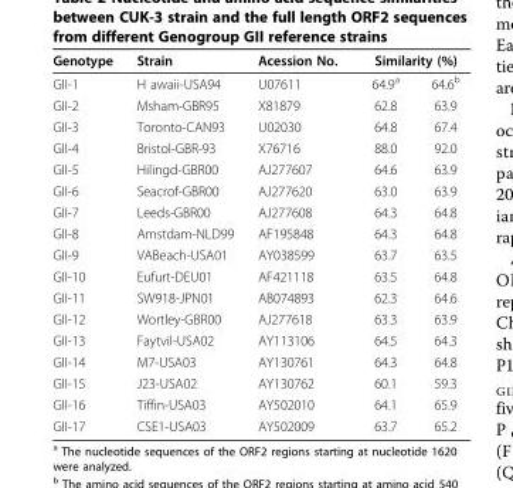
<table><thead><tr><td rowspan="2">Genotype GII-1</td><td rowspan="2">Strain H awaii-USA94</td><td rowspan="2">Acession No. U07611</td><td colspan="2">Similarity (%)</td></tr><tr><td>64.9<sup>a</sup></td><td>64.6<sup>b</sup></td></tr></thead><tbody><tr><td>GII-2</td><td>Msham-GBR95</td><td>X81879</td><td>62.8</td><td>63.9</td></tr><tr><td>GII-3</td><td>Toronto-CAN93</td><td>U02030</td><td>64.8</td><td>67.4</td></tr><tr><td>GII-4</td><td>Bristol-GBR-93</td><td>X76716</td><td>88.0</td><td>92.0</td></tr><tr><td>GII-5</td><td>Hilingd-GBR00</td><td>AJ277607</td><td>64.6</td><td>63.9</td></tr><tr><td>GII-6</td><td>Seacrof-GBR00</td><td>AJ277620</td><td>63.0</td><td>63.9</td></tr><tr><td>GII-7</td><td>Leeds-GBR00</td><td>AJ277608</td><td>64.3</td><td>64.8</td></tr><tr><td>GII-8</td><td>Amstdam-NLD99</td><td>AF195848</td><td>64.3</td><td>64.8</td></tr><tr><td>GII-9</td><td>VABeach-USA01</td><td>AY038599</td><td>63.7</td><td>63.5</td></tr><tr><td>GII-10</td><td>Eufurt-DEU01</td><td>AF421118</td><td>63.5</td><td>64.8</td></tr><tr><td>GII-11</td><td>SW918-JPN01</td><td>AB074893</td><td>62.3</td><td>64.6</td></tr><tr><td>GII-12</td><td>Wortley-GBR00</td><td>AJ277618</td><td>63.3</td><td>63.9</td></tr><tr><td>GII-13</td><td>Faytvil-USA02</td><td>AY113106</td><td>64.5</td><td>64.3</td></tr><tr><td>GII-14</td><td>M7-USA03</td><td>AY130761</td><td>64.3</td><td>64.8</td></tr><tr><td>GII-15</td><td>J23-USA02</td><td>AY130762</td><td>60.1</td><td>59.3</td></tr><tr><td>GII-16</td><td>Tiffin-USA03</td><td>AY502010</td><td>64.1</td><td>65.9</td></tr><tr><td>GII-17</td><td>CSE1-USA03</td><td>AY502009</td><td>63.7</td><td>65.2</td></tr></tbody></table>